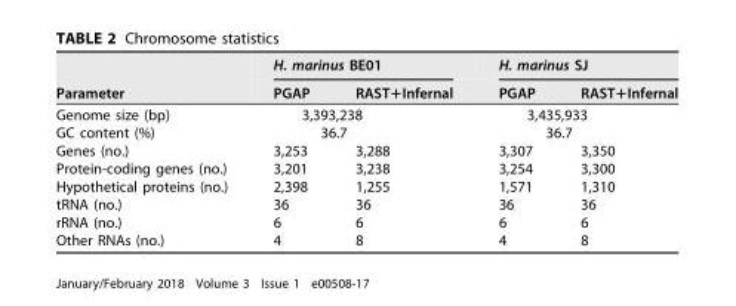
<table><thead><tr><td rowspan="2">Parameter</td><td colspan="2">H. marinus BE01</td><td colspan="2">H. marinus SJ</td></tr><tr><td>PGAP</td><td>RAST+Infernal</td><td>PGAP</td><td>RAST+Infernal</td></tr></thead><tbody><tr><td>Genome size (bp)</td><td colspan="2">3,393,238</td><td colspan="2">3,435,933</td></tr><tr><td>GC content (%)</td><td colspan="2">36.7</td><td colspan="2">36.7</td></tr><tr><td>Genes (no.)</td><td>3,253</td><td>3,288</td><td>3,307</td><td>3,350</td></tr><tr><td>Protein-coding genes (no.)</td><td>3,201</td><td>3,238</td><td>3,254</td><td>3,300</td></tr><tr><td>Hypothetical proteins (no.)</td><td>2,398</td><td>1,255</td><td>1,571</td><td>1,310</td></tr><tr><td>tRNA (no.)</td><td>36</td><td>36</td><td>36</td><td>36</td></tr><tr><td>rRNA (no.)</td><td>6</td><td>6</td><td>6</td><td>6</td></tr><tr><td>Other RNAs (no.)</td><td>4</td><td>8</td><td>4</td><td>8</td></tr></tbody></table>